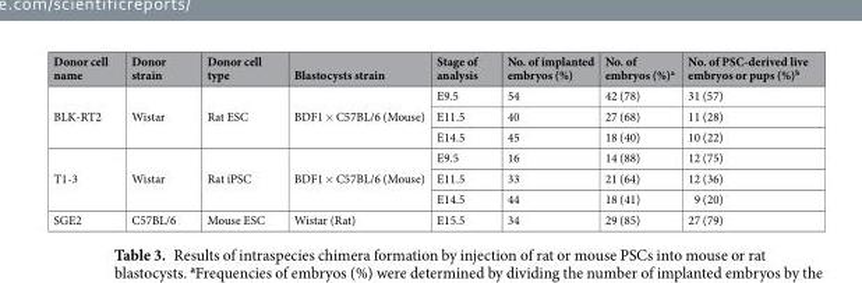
<table><thead><tr><td>Donor cell name</td><td>Donor strain</td><td>Donor cell type</td><td>Blastocysts strain</td><td>Stage of analysis</td><td>No. of implanted embryos (%)</td><td>No. of embryos (%)<sup>a</sup></td><td>No. of PSC-derived live embryos or pups (%)<sup>b</sup></td></tr></thead><tbody><tr><td rowspan="3">BLK-RT2</td><td rowspan="3">Wistar</td><td rowspan="3">Rat ESC</td><td rowspan="3">BDF1 × C57BL/6 (Mouse)</td><td>E9.5</td><td>54</td><td>42 (78)</td><td>31 (57)</td></tr><tr><td>E11.5</td><td>40</td><td>27 (68)</td><td>11 (28)</td></tr><tr><td>E14.5</td><td>45</td><td>18 (40)</td><td>10 (22)</td></tr><tr><td rowspan="3">T1-3</td><td rowspan="3">Wistar</td><td rowspan="3">Rat iPSC</td><td rowspan="3">BDF1 × C57BL/6 (Mouse)</td><td>E9.5</td><td>16</td><td>14 (88)</td><td>12 (75)</td></tr><tr><td>E11.5</td><td>33</td><td>21 (64)</td><td>12 (36)</td></tr><tr><td>E14.5</td><td>44</td><td>18 (41)</td><td>9 (20)</td></tr><tr><td>SGE2</td><td>C57BL/6</td><td>Mouse ESC</td><td>Wistar (Rat)</td><td>E15.5</td><td>34</td><td>29 (85)</td><td>27 (79)</td></tr></tbody></table>